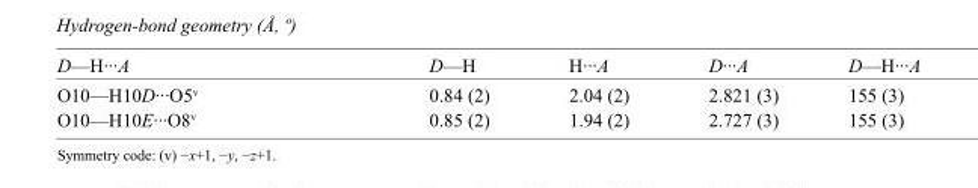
<table><tbody><tr><td>D—H···A</td><td>D—H</td><td>H···A</td><td>D···A</td><td>D—H···A</td></tr><tr><td>O10—H10D···O5<sup>v</sup></td><td>0.84 (2)</td><td>2.04 (2)</td><td>2.821 (3)</td><td>155 (3)</td></tr><tr><td>O10—H10E···O8<sup>v</sup></td><td>0.85 (2)</td><td>1.94 (2)</td><td>2.727 (3)</td><td>155 (3)</td></tr></tbody></table>